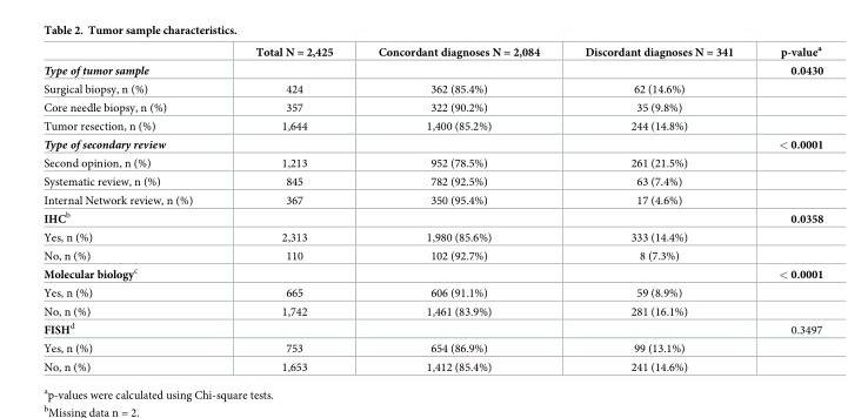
<table><thead><tr><td></td><td>Total N = 2,425</td><td>Concordant diagnoses N = 2,084</td><td>Discordant diagnoses N = 341</td><td>p-value<sup>a</sup></td></tr></thead><tbody><tr><td>Type of tumor sample</td><td></td><td></td><td></td><td>0.0430</td></tr><tr><td>Surgical biopsy, n (%)</td><td>424</td><td>362 (85.4%)</td><td>62 (14.6%)</td><td></td></tr><tr><td>Core needle biopsy, n (%)</td><td>357</td><td>322 (90.2%)</td><td>35 (9.8%)</td><td></td></tr><tr><td>Tumor resection, n (%)</td><td>1,644</td><td>1,400 (85.2%)</td><td>244 (14.8%)</td><td></td></tr><tr><td>Type of secondary review</td><td></td><td></td><td></td><td>&lt; 0.0001</td></tr><tr><td>Second opinion, n (%)</td><td>1,213</td><td>952 (78.5%)</td><td>261 (21.5%)</td><td></td></tr><tr><td>Systematic review, n (%)</td><td>845</td><td>782 (92.5%)</td><td>63 (7.4%)</td><td></td></tr><tr><td>Internal Network review, n (%)</td><td>367</td><td>350 (95.4%)</td><td>17 (4.6%)</td><td></td></tr><tr><td>IHC<sup>b</sup></td><td></td><td></td><td></td><td>0.0358</td></tr><tr><td>Yes, n (%)</td><td>2,313</td><td>1,980 (85.6%)</td><td>333 (14.4%)</td><td></td></tr><tr><td>No, n (%)</td><td>110</td><td>102 (92.7%)</td><td>8 (7.3%)</td><td></td></tr><tr><td>Molecular biology<sup>c</sup></td><td></td><td></td><td></td><td>&lt; 0.0001</td></tr><tr><td>Yes, n (%)</td><td>665</td><td>606 (91.1%)</td><td>59 (8.9%)</td><td></td></tr><tr><td>No, n (%)</td><td>1,742</td><td>1,461 (83.9%)</td><td>281 (16.1%)</td><td></td></tr><tr><td>FISH<sup>d</sup></td><td></td><td></td><td></td><td>0.3497</td></tr><tr><td>Yes, n (%)</td><td>753</td><td>654 (86.9%)</td><td>99 (13.1%)</td><td></td></tr><tr><td>No, n (%)</td><td>1,653</td><td>1,412 (85.4%)</td><td>241 (14.6%)</td><td></td></tr></tbody></table>